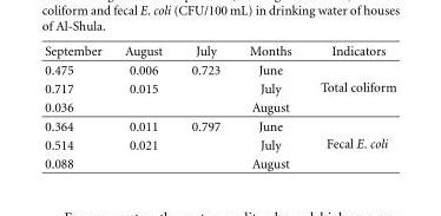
<table><thead><tr><td>September</td><td>August</td><td>July</td><td>Months</td><td>Indicators</td></tr></thead><tbody><tr><td>0.475</td><td>0.006</td><td>0.723</td><td>June</td><td rowspan="3">Total coliform</td></tr><tr><td>0.717</td><td>0.015</td><td></td><td>July</td></tr><tr><td>0.036</td><td></td><td></td><td>August</td></tr><tr><td>0.364</td><td>0.011</td><td>0.797</td><td>June</td><td rowspan="3">Fecal E. coli</td></tr><tr><td>0.514</td><td>0.021</td><td></td><td>July</td></tr><tr><td>0.088</td><td></td><td></td><td>August</td></tr></tbody></table>